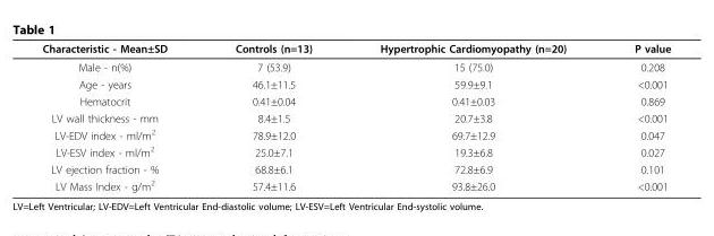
<table><thead><tr><td>Characteristic - Mean±SD</td><td>Controls (n=13)</td><td>Hypertrophic Cardiomyopathy (n=20)</td><td>P value</td></tr></thead><tbody><tr><td>Male - n(%)</td><td>7 (53.9)</td><td>15 (75.0)</td><td>0.208</td></tr><tr><td>Age - years</td><td>46.1±11.5</td><td>59.9±9.1</td><td>&lt;0.001</td></tr><tr><td>Hematocrit</td><td>0.41±0.04</td><td>0.41±0.03</td><td>0.869</td></tr><tr><td>LV wall thickness - mm</td><td>8.4±1.5</td><td>20.7±3.8</td><td>&lt;0.001</td></tr><tr><td>LV-EDV index - ml/m<sup>2</sup></td><td>78.9±12.0</td><td>69.7±12.9</td><td>0.047</td></tr><tr><td>LV-ESV index - ml/m<sup>2</sup></td><td>25.0±7.1</td><td>19.3±6.8</td><td>0.027</td></tr><tr><td>LV ejection fraction - %</td><td>68.8±6.1</td><td>72.8±6.9</td><td>0.101</td></tr><tr><td>LV Mass Index - g/m<sup>2</sup></td><td>57.4±11.6</td><td>93.8±26.0</td><td>&lt;0.001</td></tr></tbody></table>